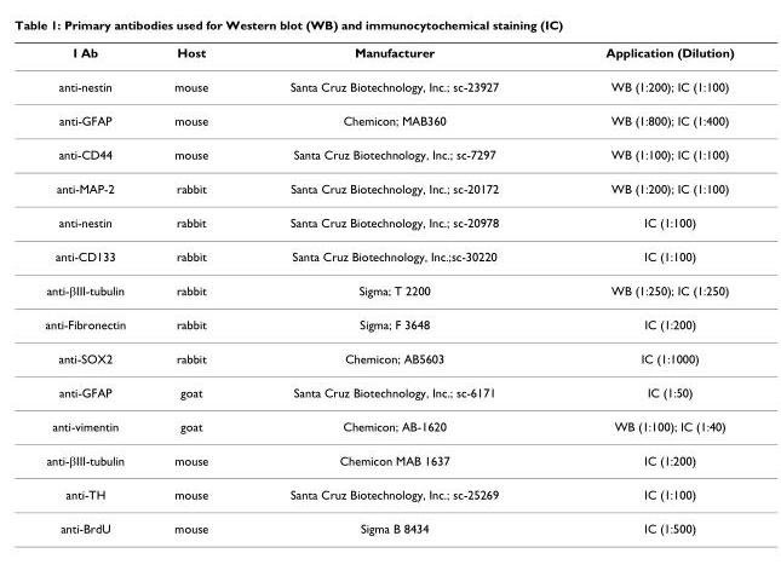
<table><thead><tr><td>I Ab</td><td>Host</td><td>Manufacturer</td><td>Application (Dilution)</td></tr></thead><tbody><tr><td>anti-nestin</td><td>mouse</td><td>Santa Cruz Biotechnology, Inc.; sc-23927</td><td>WB (1:200); IC (1:100)</td></tr><tr><td>anti-GFAP</td><td>mouse</td><td>Chemicon; MAB360</td><td>WB (1:800); IC (1:400)</td></tr><tr><td>anti-CD44</td><td>mouse</td><td>Santa Cruz Biotechnology, Inc.; sc-7297</td><td>WB (1:100); IC (1:100)</td></tr><tr><td>anti-MAP-2</td><td>rabbit</td><td>Santa Cruz Biotechnology, Inc.; sc-20172</td><td>WB (1:200); IC (1:100)</td></tr><tr><td>anti-nestin</td><td>rabbit</td><td>Santa Cruz Biotechnology, Inc.; sc-20978</td><td>IC (1:100)</td></tr><tr><td>anti-CD133</td><td>rabbit</td><td>Santa Cruz Biotechnology, Inc.;sc-30220</td><td>IC (1:100)</td></tr><tr><td>anti-βIII-tubulin</td><td>rabbit</td><td>Sigma; T 2200</td><td>WB (1:250); IC (1:250)</td></tr><tr><td>anti-Fibronectin</td><td>rabbit</td><td>Sigma; F 3648</td><td>IC (1:200)</td></tr><tr><td>anti-SOX2</td><td>rabbit</td><td>Chemicon; AB5603</td><td>IC (1:1000)</td></tr><tr><td>anti-GFAP</td><td>goat</td><td>Santa Cruz Biotechnology, Inc.; sc-6171</td><td>IC (1:50)</td></tr><tr><td>anti-vimentin</td><td>goat</td><td>Chemicon; AB-1620</td><td>WB (1:100); IC (1:40)</td></tr><tr><td>anti-βIII-tubulin</td><td>mouse</td><td>Chemicon MAB 1637</td><td>IC (1:200)</td></tr><tr><td>anti-TH</td><td>mouse</td><td>Santa Cruz Biotechnology, Inc.; sc-25269</td><td>IC (1:100)</td></tr><tr><td>anti-BrdU</td><td>mouse</td><td>Sigma B 8434</td><td>IC (1:500)</td></tr></tbody></table>